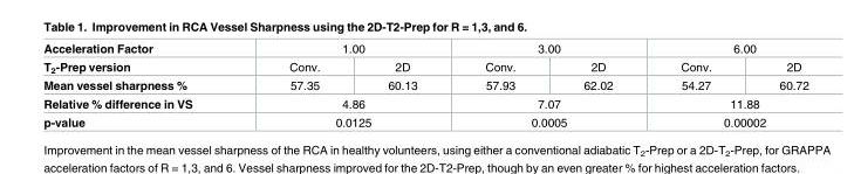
<table><tbody><tr><td>Acceleration Factor</td><td colspan="2">1.00</td><td colspan="2">3.00</td><td colspan="2">6.00</td></tr><tr><td>T<sub>2</sub>-Prep version</td><td>Conv.</td><td>2D</td><td>Conv.</td><td>2D</td><td>Conv.</td><td>2D</td></tr><tr><td>Mean vessel sharpness %</td><td>57.35</td><td>60.13</td><td>57.93</td><td>62.02</td><td>54.27</td><td>60.72</td></tr><tr><td>Relative % difference in VS</td><td colspan="2">4.86</td><td colspan="2">7.07</td><td colspan="2">11.88</td></tr><tr><td>p-value</td><td colspan="2">0.0125</td><td colspan="2">0.0005</td><td colspan="2">0.00002</td></tr></tbody></table>